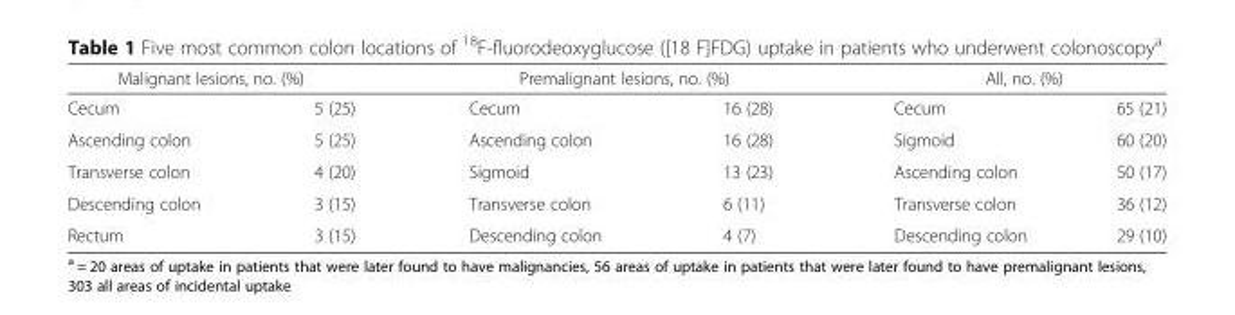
<table><thead><tr><td colspan="2">Malignant lesions, no. (%)</td><td colspan="2">Premalignant lesions, no. (%)</td><td colspan="2">All, no. (%)</td></tr><tr><td>Cecum</td><td>5 (25)</td><td>Cecum</td><td>16 (28)</td><td>Cecum</td><td>65 (21)</td></tr></thead><tbody><tr><td>Ascending colon</td><td>5 (25)</td><td>Ascending colon</td><td>16 (28)</td><td>Sigmoid</td><td>60 (20)</td></tr><tr><td>Transverse colon</td><td>4 (20)</td><td>Sigmoid</td><td>13 (23)</td><td>Ascending colon</td><td>50 (17)</td></tr><tr><td>Descending colon</td><td>3 (15)</td><td>Transverse colon</td><td>6 (11)</td><td>Transverse colon</td><td>36 (12)</td></tr><tr><td>Rectum</td><td>3 (15)</td><td>Descending colon</td><td>4 (7)</td><td>Descending colon</td><td>29 (10)</td></tr></tbody></table>